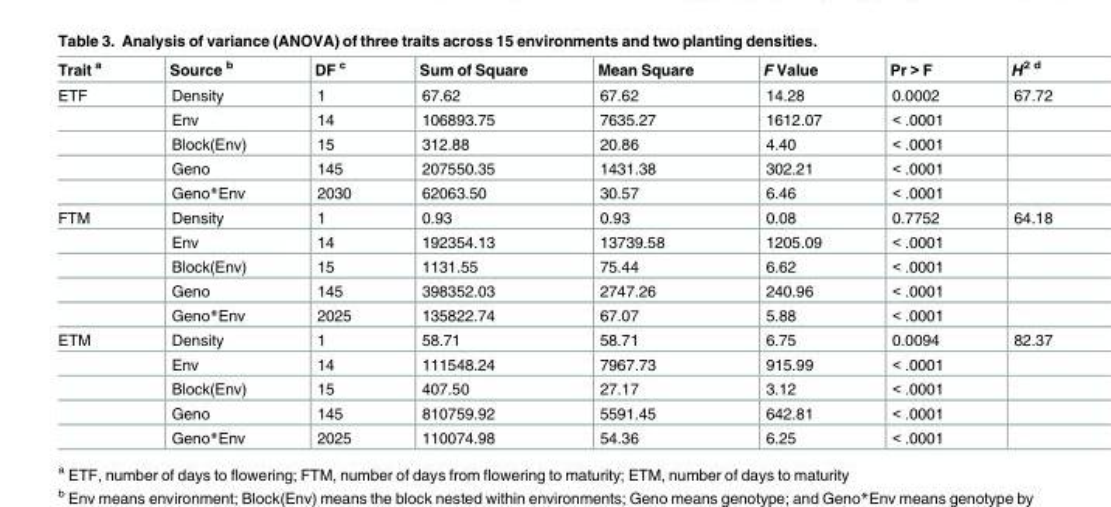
<table><thead><tr><td>Trait <sup>a</sup></td><td>Source <sup>b</sup></td><td>DF <sup>c</sup></td><td>Sum of Square</td><td>Mean Square</td><td>F Value</td><td>Pr &gt; F</td><td>H<sup>2 d</sup></td></tr></thead><tbody><tr><td rowspan="5">ETF</td><td>Density</td><td>1</td><td>67.62</td><td>67.62</td><td>14.28</td><td>0.0002</td><td>67.72</td></tr><tr><td>Env</td><td>14</td><td>106893.75</td><td>7635.27</td><td>1612.07</td><td>&lt; .0001</td><td></td></tr><tr><td>Block(Env)</td><td>15</td><td>312.88</td><td>20.86</td><td>4.40</td><td>&lt; .0001</td><td></td></tr><tr><td>Geno</td><td>145</td><td>207550.35</td><td>1431.38</td><td>302.21</td><td>&lt; .0001</td><td></td></tr><tr><td>Geno*Env</td><td>2030</td><td>62063.50</td><td>30.57</td><td>6.46</td><td>&lt; .0001</td><td></td></tr><tr><td rowspan="5">FTM</td><td>Density</td><td>1</td><td>0.93</td><td>0.93</td><td>0.08</td><td>0.7752</td><td>64.18</td></tr><tr><td>Env</td><td>14</td><td>192354.13</td><td>13739.58</td><td>1205.09</td><td>&lt; .0001</td><td></td></tr><tr><td>Block(Env)</td><td>15</td><td>1131.55</td><td>75.44</td><td>6.62</td><td>&lt; .0001</td><td></td></tr><tr><td>Geno</td><td>145</td><td>398352.03</td><td>2747.26</td><td>240.96</td><td>&lt; .0001</td><td></td></tr><tr><td>Geno*Env</td><td>2025</td><td>135822.74</td><td>67.07</td><td>5.88</td><td>&lt; .0001</td><td></td></tr><tr><td rowspan="5">ETM</td><td>Density</td><td>1</td><td>58.71</td><td>58.71</td><td>6.75</td><td>0.0094</td><td>82.37</td></tr><tr><td>Env</td><td>14</td><td>111548.24</td><td>7967.73</td><td>915.99</td><td>&lt; .0001</td><td></td></tr><tr><td>Block(Env)</td><td>15</td><td>407.50</td><td>27.17</td><td>3.12</td><td>&lt; .0001</td><td></td></tr><tr><td>Geno</td><td>145</td><td>810759.92</td><td>5591.45</td><td>642.81</td><td>&lt; .0001</td><td></td></tr><tr><td>Geno*Env</td><td>2025</td><td>110074.98</td><td>54.36</td><td>6.25</td><td>&lt; .0001</td><td></td></tr></tbody></table>